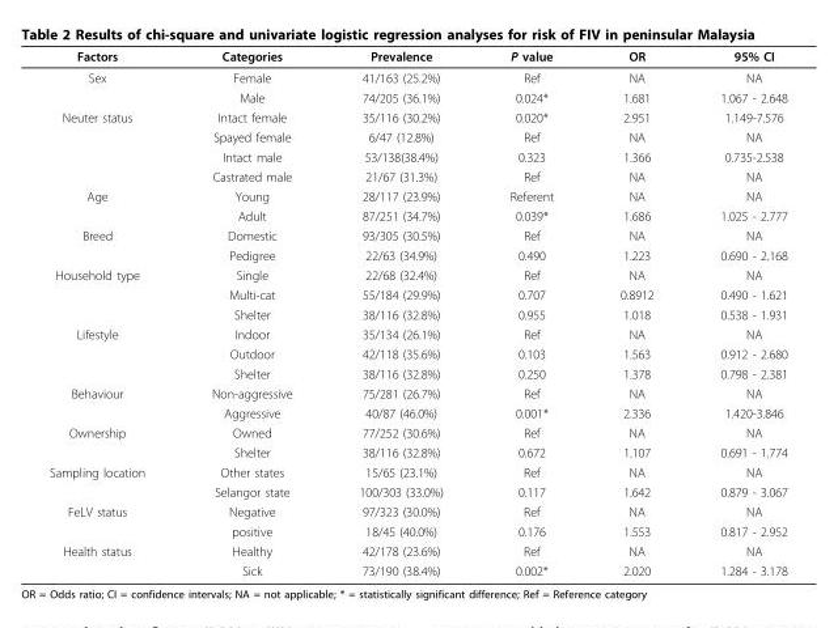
<table><thead><tr><td>Factors</td><td>Categories</td><td>Prevalence</td><td>P value</td><td>OR</td><td>95% CI</td></tr></thead><tbody><tr><td rowspan="2">Sex</td><td>Female</td><td>41/163 (25.2%)</td><td>Ref</td><td>NA</td><td>NA</td></tr><tr><td>Male</td><td>74/205 (36.1%)</td><td>0.024*</td><td>1.681</td><td>1.067 - 2.648</td></tr><tr><td rowspan="4">Neuter status</td><td>Intact female</td><td>35/116 (30.2%)</td><td>0.020*</td><td>2.951</td><td>1.149-7.576</td></tr><tr><td>Spayed female</td><td>6/47 (12.8%)</td><td>Ref</td><td>NA</td><td>NA</td></tr><tr><td>Intact male</td><td>53/138(38.4%)</td><td>0.323</td><td>1.366</td><td>0.735-2.538</td></tr><tr><td>Castrated male</td><td>21/67 (31.3%)</td><td>Ref</td><td>NA</td><td>NA</td></tr><tr><td rowspan="2">Age</td><td>Young</td><td>28/117 (23.9%)</td><td>Referent</td><td>NA</td><td>NA</td></tr><tr><td>Adult</td><td>87/251 (34.7%)</td><td>0.039*</td><td>1.686</td><td>1.025 - 2.777</td></tr><tr><td rowspan="2">Breed</td><td>Domestic</td><td>93/305 (30.5%)</td><td>Ref</td><td>NA</td><td>NA</td></tr><tr><td>Pedigree</td><td>22/63 (34.9%)</td><td>0.490</td><td>1.223</td><td>0.690 - 2.168</td></tr><tr><td rowspan="3">Household type</td><td>Single</td><td>22/68 (32.4%)</td><td>Ref</td><td>NA</td><td>NA</td></tr><tr><td>Multi-cat</td><td>55/184 (29.9%)</td><td>0.707</td><td>0.8912</td><td>0.490 - 1.621</td></tr><tr><td>Shelter</td><td>38/116 (32.8%)</td><td>0.955</td><td>1.018</td><td>0.538 - 1.931</td></tr><tr><td rowspan="3">Lifestyle</td><td>Indoor</td><td>35/134 (26.1%)</td><td>Ref</td><td>NA</td><td>NA</td></tr><tr><td>Outdoor</td><td>42/118 (35.6%)</td><td>0.103</td><td>1.563</td><td>0.912 - 2.680</td></tr><tr><td>Shelter</td><td>38/116 (32.8%)</td><td>0.250</td><td>1.378</td><td>0.798 - 2.381</td></tr><tr><td rowspan="2">Behaviour</td><td>Non-aggressive</td><td>75/281 (26.7%)</td><td>Ref</td><td>NA</td><td>NA</td></tr><tr><td>Aggressive</td><td>40/87 (46.0%)</td><td>0.001*</td><td>2.336</td><td>1.420-3.846</td></tr><tr><td rowspan="2">Ownership</td><td>Owned</td><td>77/252 (30.6%)</td><td>Ref</td><td>NA</td><td>NA</td></tr><tr><td>Shelter</td><td>38/116 (32.8%)</td><td>0.672</td><td>1.107</td><td>0.691 - 1.774</td></tr><tr><td rowspan="2">Sampling location</td><td>Other states</td><td>15/65 (23.1%)</td><td>Ref</td><td>NA</td><td>NA</td></tr><tr><td>Selangor state</td><td>100/303 (33.0%)</td><td>0.117</td><td>1.642</td><td>0.879 - 3.067</td></tr><tr><td rowspan="2">FeLV status</td><td>Negative</td><td>97/323 (30.0%)</td><td>Ref</td><td>NA</td><td>NA</td></tr><tr><td>positive</td><td>18/45 (40.0%)</td><td>0.176</td><td>1.553</td><td>0.817 - 2.952</td></tr><tr><td rowspan="2">Health status</td><td>Healthy</td><td>42/178 (23.6%)</td><td>Ref</td><td>NA</td><td>NA</td></tr><tr><td>Sick</td><td>73/190 (38.4%)</td><td>0.002*</td><td>2.020</td><td>1.284 - 3.178</td></tr></tbody></table>